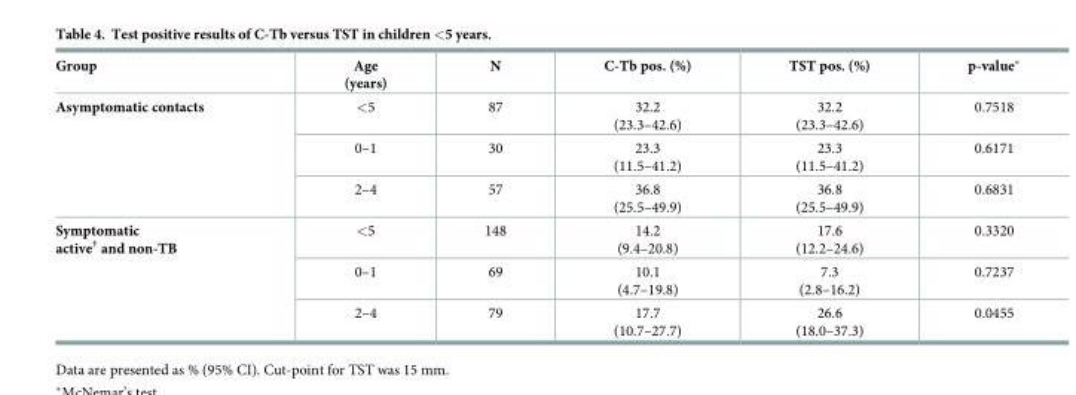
<table><thead><tr><td>Group</td><td>Age (years)</td><td>N</td><td>C-Tb pos. (%)</td><td>TST pos. (%)</td><td>p-value*</td></tr></thead><tbody><tr><td rowspan="3">Asymptomatic contacts</td><td>&lt;5</td><td>87</td><td>32.2 (23.3–42.6)</td><td>32.2 (23.3–42.6)</td><td>0.7518</td></tr><tr><td>0–1</td><td>30</td><td>23.3 (11.5–41.2)</td><td>23.3 (11.5–41.2)</td><td>0.6171</td></tr><tr><td>2–4</td><td>57</td><td>36.8 (25.5–49.9)</td><td>36.8 (25.5–49.9)</td><td>0.6831</td></tr><tr><td rowspan="3">Symptomatic active<sup>†</sup> and non-TB</td><td>&lt;5</td><td>148</td><td>14.2 (9.4–20.8)</td><td>17.6 (12.2–24.6)</td><td>0.3320</td></tr><tr><td>0–1</td><td>69</td><td>10.1 (4.7–19.8)</td><td>7.3 (2.8–16.2)</td><td>0.7237</td></tr><tr><td>2–4</td><td>79</td><td>17.7 (10.7–27.7)</td><td>26.6 (18.0–37.3)</td><td>0.0455</td></tr></tbody></table>